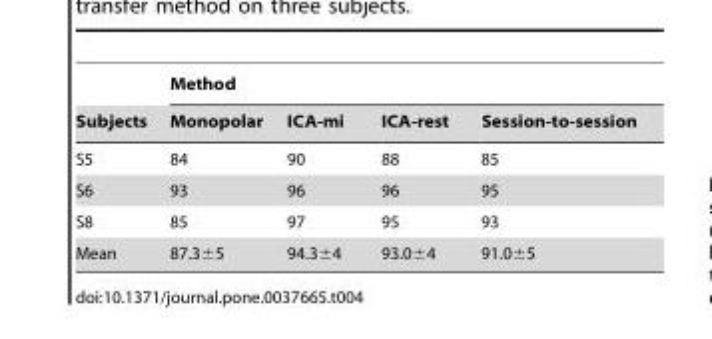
<table><thead><tr><td rowspan="2">Subjects</td><td colspan="4">Method</td></tr><tr><td>Monopolar</td><td>ICA-mi</td><td>ICA-rest</td><td>Session-to-session</td></tr></thead><tbody><tr><td>S5</td><td>84</td><td>90</td><td>88</td><td>85</td></tr><tr><td>S6</td><td>93</td><td>96</td><td>96</td><td>95</td></tr><tr><td>S8</td><td>85</td><td>97</td><td>95</td><td>93</td></tr><tr><td>Mean</td><td>87.3±5</td><td>94.3±4</td><td>93.0±4</td><td>91.0±5</td></tr></tbody></table>